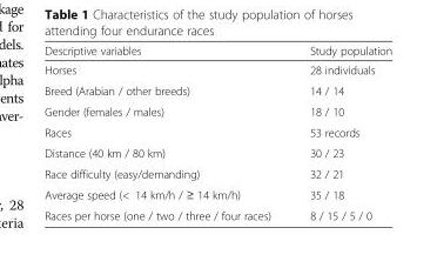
<table><thead><tr><td>Descriptive variables</td><td>Study population</td></tr></thead><tbody><tr><td>Horses</td><td>28 individuals</td></tr><tr><td>Breed (Arabian / other breeds)</td><td>14 / 14</td></tr><tr><td>Gender (females / males)</td><td>18 / 10</td></tr><tr><td>Races</td><td>53 records</td></tr><tr><td>Distance (40 km / 80 km)</td><td>30 / 23</td></tr><tr><td>Race difficulty (easy/demanding)</td><td>32 / 21</td></tr><tr><td>Average speed (&lt; 14 km/h / ≥ 14 km/h)</td><td>35 / 18</td></tr><tr><td>Races per horse (one / two / three / four races)</td><td>8 / 15 / 5 / 0</td></tr></tbody></table>